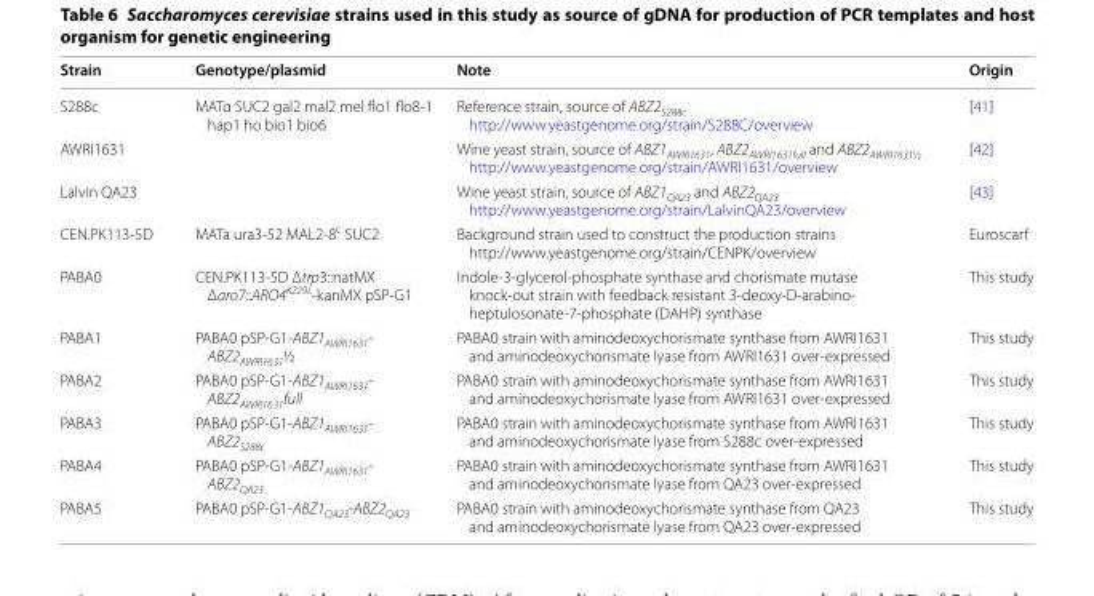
<table><thead><tr><td>Strain</td><td>Genotype/plasmid</td><td>Note</td><td>Origin</td></tr></thead><tbody><tr><td>S288c</td><td>MATα SUC2 gal2 mal2 mel flo1 flo8-1 hap1 ho bio1 bio6</td><td>Reference strain, source of ABZ2<sub>S288c</sub> http://www.yeastgenome.org/strain/S288C/overview</td><td>[41]</td></tr><tr><td>AWRI1631</td><td></td><td>Wine yeast strain, source of ABZ1<sub>AWRI1631</sub>, ABZ2<sub>AWRI1631full</sub> and ABZ2<sub>AWRI1631½</sub> http://www.yeastgenome.org/strain/AWRI1631/overview</td><td>[42]</td></tr><tr><td>Lalvin QA23</td><td></td><td>Wine yeast strain, source of ABZ1<sub>QA23</sub> and ABZ2<sub>QA23</sub> http://www.yeastgenome.org/strain/LalvinQA23/overview</td><td>[43]</td></tr><tr><td>CEN.PK113-5D</td><td>MATa ura3-52 MAL2-8<sup>c</sup> SUC2</td><td>Background strain used to construct the production strains http://www.yeastgenome.org/strain/CENPK/overview</td><td>Euroscarf</td></tr><tr><td>PABA0</td><td>CEN.PK113-5D Δtrp3::natMX Δaro7::ARO4<sup>K229L</sup>-kanMX pSP-G1</td><td>Indole-3-glycerol-phosphate synthase and chorismate mutase knock-out strain with feedback resistant 3-deoxy-d-arabino- heptulosonate-7-phosphate (DAHP) synthase</td><td>This study</td></tr><tr><td>PABA1</td><td>PABA0 pSP-G1-ABZ1<sub>AWRI1631</sub>- ABZ2<sub>AWRI1631</sub>½</td><td>PABA0 strain with aminodeoxychorismate synthase from AWRI1631 and aminodeoxychorismate lyase from AWRI1631 over-expressed</td><td>This study</td></tr><tr><td>PABA2</td><td>PABA0 pSP-G1-ABZ1<sub>AWRI1631</sub>- ABZ2<sub>AWRI1631</sub>full</td><td>PABA0 strain with aminodeoxychorismate synthase from AWRI1631 and aminodeoxychorismate lyase from AWRI1631 over-expressed</td><td>This study</td></tr><tr><td>PABA3</td><td>PABA0 pSP-G1-ABZ1<sub>AWRI1631</sub>- ABZ2<sub>S288c</sub></td><td>PABA0 strain with aminodeoxychorismate synthase from AWRI1631 and aminodeoxychorismate lyase from S288c over-expressed</td><td>This study</td></tr><tr><td>PABA4</td><td>PABA0 pSP-G1-ABZ1<sub>AWRI1631</sub>- ABZ2<sub>QA23</sub></td><td>PABA0 strain with aminodeoxychorismate synthase from AWRI1631 and aminodeoxychorismate lyase from QA23 over-expressed</td><td>This study</td></tr><tr><td>PABA5</td><td>PABA0 pSP-G1-ABZ1<sub>QA23</sub>-ABZ2<sub>QA23</sub></td><td>PABA0 strain with aminodeoxychorismate synthase from QA23 and aminodeoxychorismate lyase from QA23 over-expressed</td><td>This study</td></tr></tbody></table>